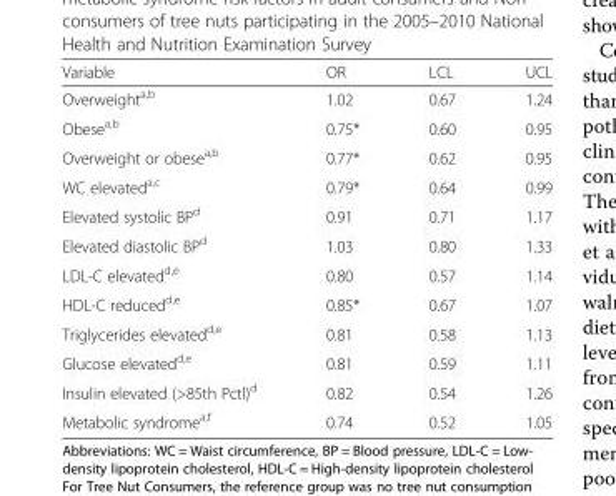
<table><thead><tr><td>Variable</td><td>OR</td><td>LCL</td><td>UCL</td></tr></thead><tbody><tr><td>Overweight<sup>a,b</sup></td><td>1.02</td><td>0.67</td><td>1.24</td></tr><tr><td>Obese<sup>a,b</sup></td><td>0.75*</td><td>0.60</td><td>0.95</td></tr><tr><td>Overweight or obese<sup>a,b</sup></td><td>0.77*</td><td>0.62</td><td>0.95</td></tr><tr><td>WC elevated<sup>a,c</sup></td><td>0.79*</td><td>0.64</td><td>0.99</td></tr><tr><td>Elevated systolic BP<sup>d</sup></td><td>0.91</td><td>0.71</td><td>1.17</td></tr><tr><td>Elevated diastolic BP<sup>d</sup></td><td>1.03</td><td>0.80</td><td>1.33</td></tr><tr><td>LDL-C elevated<sup>d,e</sup></td><td>0.80</td><td>0.57</td><td>1.14</td></tr><tr><td>HDL-C reduced<sup>d,e</sup></td><td>0.85*</td><td>0.67</td><td>1.07</td></tr><tr><td>Triglycerides elevated<sup>d,e</sup></td><td>0.81</td><td>0.58</td><td>1.13</td></tr><tr><td>Glucose elevated<sup>d,e</sup></td><td>0.81</td><td>0.59</td><td>1.11</td></tr><tr><td>Insulin elevated (&gt;85th Pctl)<sup>d</sup></td><td>0.82</td><td>0.54</td><td>1.26</td></tr><tr><td>Metabolic syndrome<sup>a,f</sup></td><td>0.74</td><td>0.52</td><td>1.05</td></tr></tbody></table>